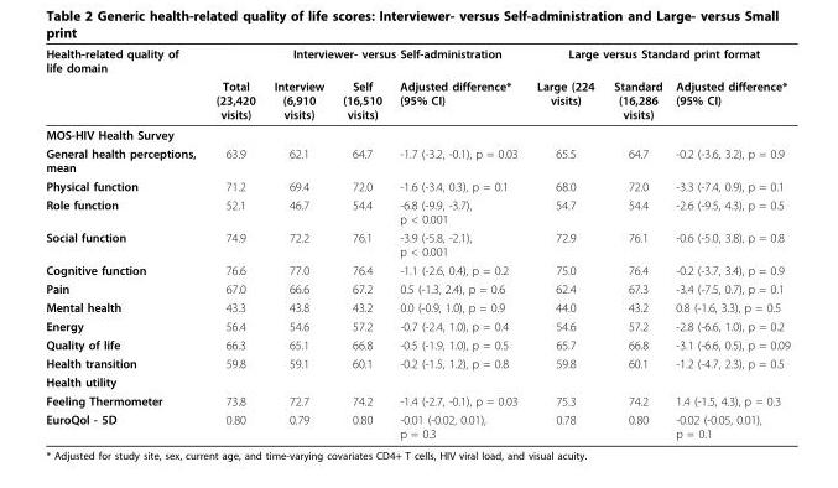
<table><thead><tr><td rowspan="2">Health-related quality of life domain</td><td rowspan="2">Total (23,420 visits)</td><td colspan="3">Interviewer- versus Self-administration</td><td colspan="3">Large versus Standard print format</td></tr><tr><td>Interview (6,910 visits)</td><td>Self (16,510 visits)</td><td>Adjusted difference* (95% CI)</td><td>Large (224 visits)</td><td>Standard (16,286 visits)</td><td>Adjusted difference* (95% CI)</td></tr></thead><tbody><tr><td colspan="8">MOS-HIV Health Survey</td></tr><tr><td>General health perceptions, mean</td><td>63.9</td><td>62.1</td><td>64.7</td><td>-1.7 (-3.2, -0.1), p = 0.03</td><td>65.5</td><td>64.7</td><td>-0.2 (-3.6, 3.2), p = 0.9</td></tr><tr><td>Physical function</td><td>71.2</td><td>69.4</td><td>72.0</td><td>-1.6 (-3.4, 0.3), p = 0.1</td><td>68.0</td><td>72.0</td><td>-3.3 (-7.4, 0.9), p = 0.1</td></tr><tr><td>Role function</td><td>52.1</td><td>46.7</td><td>54.4</td><td>-6.8 (-9.9, -3.7), p &lt; 0.001</td><td>54.7</td><td>54.4</td><td>-2.6 (-9.5, 4.3), p = 0.5</td></tr><tr><td>Social function</td><td>74.9</td><td>72.2</td><td>76.1</td><td>-3.9 (-5.8, -2.1), p &lt; 0.001</td><td>72.9</td><td>76.1</td><td>-0.6 (-5.0, 3.8), p = 0.8</td></tr><tr><td>Cognitive function</td><td>76.6</td><td>77.0</td><td>76.4</td><td>-1.1 (-2.6, 0.4), p = 0.2</td><td>75.0</td><td>76.4</td><td>-0.2 (-3.7, 3.4), p = 0.9</td></tr><tr><td>Pain</td><td>67.0</td><td>66.6</td><td>67.2</td><td>0.5 (-1.3, 2.4), p = 0.6</td><td>62.4</td><td>67.3</td><td>-3.4 (-7.5, 0.7), p = 0.1</td></tr><tr><td>Mental health</td><td>43.3</td><td>43.8</td><td>43.2</td><td>0.0 (-0.9, 1.0), p = 0.9</td><td>44.0</td><td>43.2</td><td>0.8 (-1.6, 3.3), p = 0.5</td></tr><tr><td>Energy</td><td>56.4</td><td>54.6</td><td>57.2</td><td>-0.7 (-2.4, 1.0), p = 0.4</td><td>54.6</td><td>57.2</td><td>-2.8 (-6.6, 1.0), p = 0.2</td></tr><tr><td>Quality of life</td><td>66.3</td><td>65.1</td><td>66.8</td><td>-0.5 (-1.9, 1.0), p = 0.5</td><td>65.7</td><td>66.8</td><td>-3.1 (-6.6, 0.5), p = 0.09</td></tr><tr><td>Health transition</td><td>59.8</td><td>59.1</td><td>60.1</td><td>-0.2 (-1.5, 1.2), p = 0.8</td><td>59.8</td><td>60.1</td><td>-1.2 (-4.7, 2.3), p = 0.5</td></tr><tr><td colspan="8">Health utility</td></tr><tr><td>Feeling Thermometer</td><td>73.8</td><td>72.7</td><td>74.2</td><td>-1.4 (-2.7, -0.1), p = 0.03</td><td>75.3</td><td>74.2</td><td>1.4 (-1.5, 4.3), p = 0.3</td></tr><tr><td>EuroQol - 5D</td><td>0.80</td><td>0.79</td><td>0.80</td><td>-0.01 (-0.02, 0.01), p = 0.3</td><td>0.78</td><td>0.80</td><td>-0.02 (-0.05, 0.01), p = 0.1</td></tr></tbody></table>